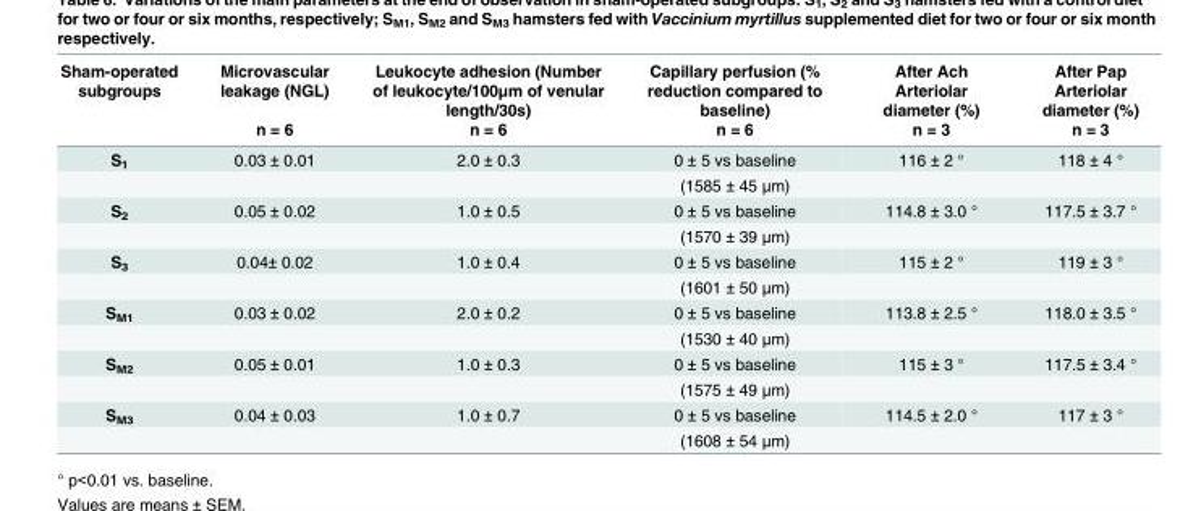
<table><thead><tr><td rowspan="2">Sham-operated subgroups</td><td rowspan="2">Microvascular leakage (NGL) n = 6</td><td rowspan="2">Leukocyte adhesion (Number of leukocyte/100μm of venular length/30s) n = 6</td><td rowspan="2">Capillary perfusion (% reduction compared to baseline) n = 6</td><td rowspan="2">After Ach Arteriolar diameter (%) n = 3</td><td rowspan="2">After Pap Arteriolar diameter (%) n = 3</td></tr><tr></tr></thead><tbody><tr><td rowspan="2">S<sub>1</sub></td><td>0.03 ± 0.01</td><td>2.0 ± 0.3</td><td>0 ± 5 vs baseline</td><td>116 ± 2 °</td><td>118 ± 4 °</td></tr><tr><td></td><td></td><td>(1585 ± 45 μm)</td><td></td><td></td></tr><tr><td rowspan="2">S<sub>2</sub></td><td>0.05 ± 0.02</td><td>1.0 ± 0.5</td><td>0 ± 5 vs baseline</td><td>114.8 ± 3.0 °</td><td>117.5 ± 3.7 °</td></tr><tr><td></td><td></td><td>(1570 ± 39 μm)</td><td></td><td></td></tr><tr><td rowspan="2">S<sub>3</sub></td><td>0.04± 0.02</td><td>1.0 ± 0.4</td><td>0 ± 5 vs baseline</td><td>115 ± 2 °</td><td>119 ± 3 °</td></tr><tr><td></td><td></td><td>(1601 ± 50 μm)</td><td></td><td></td></tr><tr><td rowspan="2">S<sub>M1</sub></td><td>0.03 ± 0.02</td><td>2.0 ± 0.2</td><td>0 ± 5 vs baseline</td><td>113.8 ± 2.5 °</td><td>118.0 ± 3.5 °</td></tr><tr><td></td><td></td><td>(1530 ± 40 μm)</td><td></td><td></td></tr><tr><td rowspan="2">S<sub>M2</sub></td><td>0.05 ± 0.01</td><td>1.0 ± 0.3</td><td>0 ± 5 vs baseline</td><td>115 ± 3 °</td><td>117.5 ± 3.4 °</td></tr><tr><td></td><td></td><td>(1575 ± 49 μm)</td><td></td><td></td></tr><tr><td rowspan="2">S<sub>M3</sub></td><td>0.04 ± 0.03</td><td>1.0 ± 0.7</td><td>0 ± 5 vs baseline</td><td>114.5 ± 2.0 °</td><td>117 ± 3 °</td></tr><tr><td></td><td></td><td>(1608 ± 54 μm)</td><td></td><td></td></tr></tbody></table>